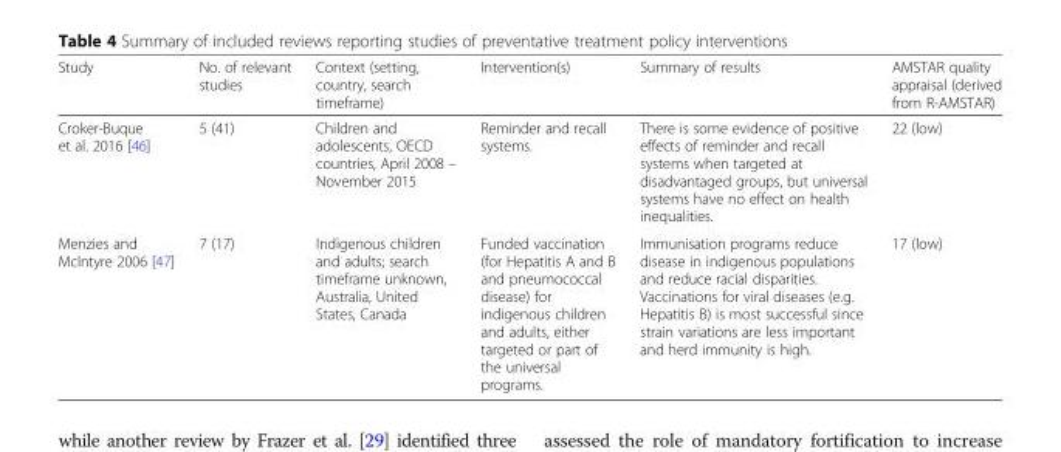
<table><thead><tr><td>Study</td><td>No. of relevant studies</td><td>Context (setting, country, search timeframe)</td><td>Intervention(s)</td><td>Summary of results</td><td>AMSTAR quality appraisal (derived from R-AMSTAR)</td></tr></thead><tbody><tr><td>Croker-Buque et al. 2016 [46]</td><td>5 (41)</td><td>Children and adolescents, OECD countries, April 2008 – November 2015</td><td>Reminder and recall systems.</td><td>There is some evidence of positive effects of reminder and recall systems when targeted at disadvantaged groups, but universal systems have no effect on health inequalities.</td><td>22 (low)</td></tr><tr><td>Menzies and McIntyre 2006 [47]</td><td>7 (17)</td><td>Indigenous children and adults; search timeframe unknown, Australia, United States, Canada</td><td>Funded vaccination (for Hepatitis A and B and pneumococcal disease) for indigenous children and adults, either targeted or part of the universal programs.</td><td>Immunisation programs reduce disease in indigenous populations and reduce racial disparities. Vaccinations for viral diseases (e.g. Hepatitis B) is most successful since strain variations are less important and herd immunity is high.</td><td>17 (low)</td></tr></tbody></table>